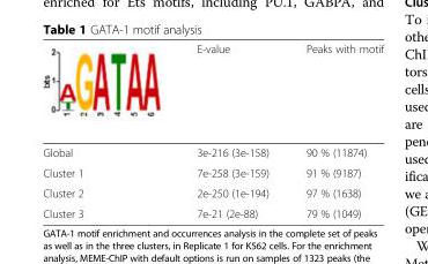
<table><thead><tr><td></td><td>E-value</td><td>Peaks with motif</td></tr></thead><tbody><tr><td>Global</td><td>3e-216 (3e-158)</td><td>90 % (11874)</td></tr><tr><td>Cluster 1</td><td>7e-258 (3e-159)</td><td>91 % (9187)</td></tr><tr><td>Cluster 2</td><td>2e-250 (1e-194)</td><td>97 % (1638)</td></tr><tr><td>Cluster 3</td><td>7e-21 (2e-88)</td><td>79 % (1049)</td></tr></tbody></table>